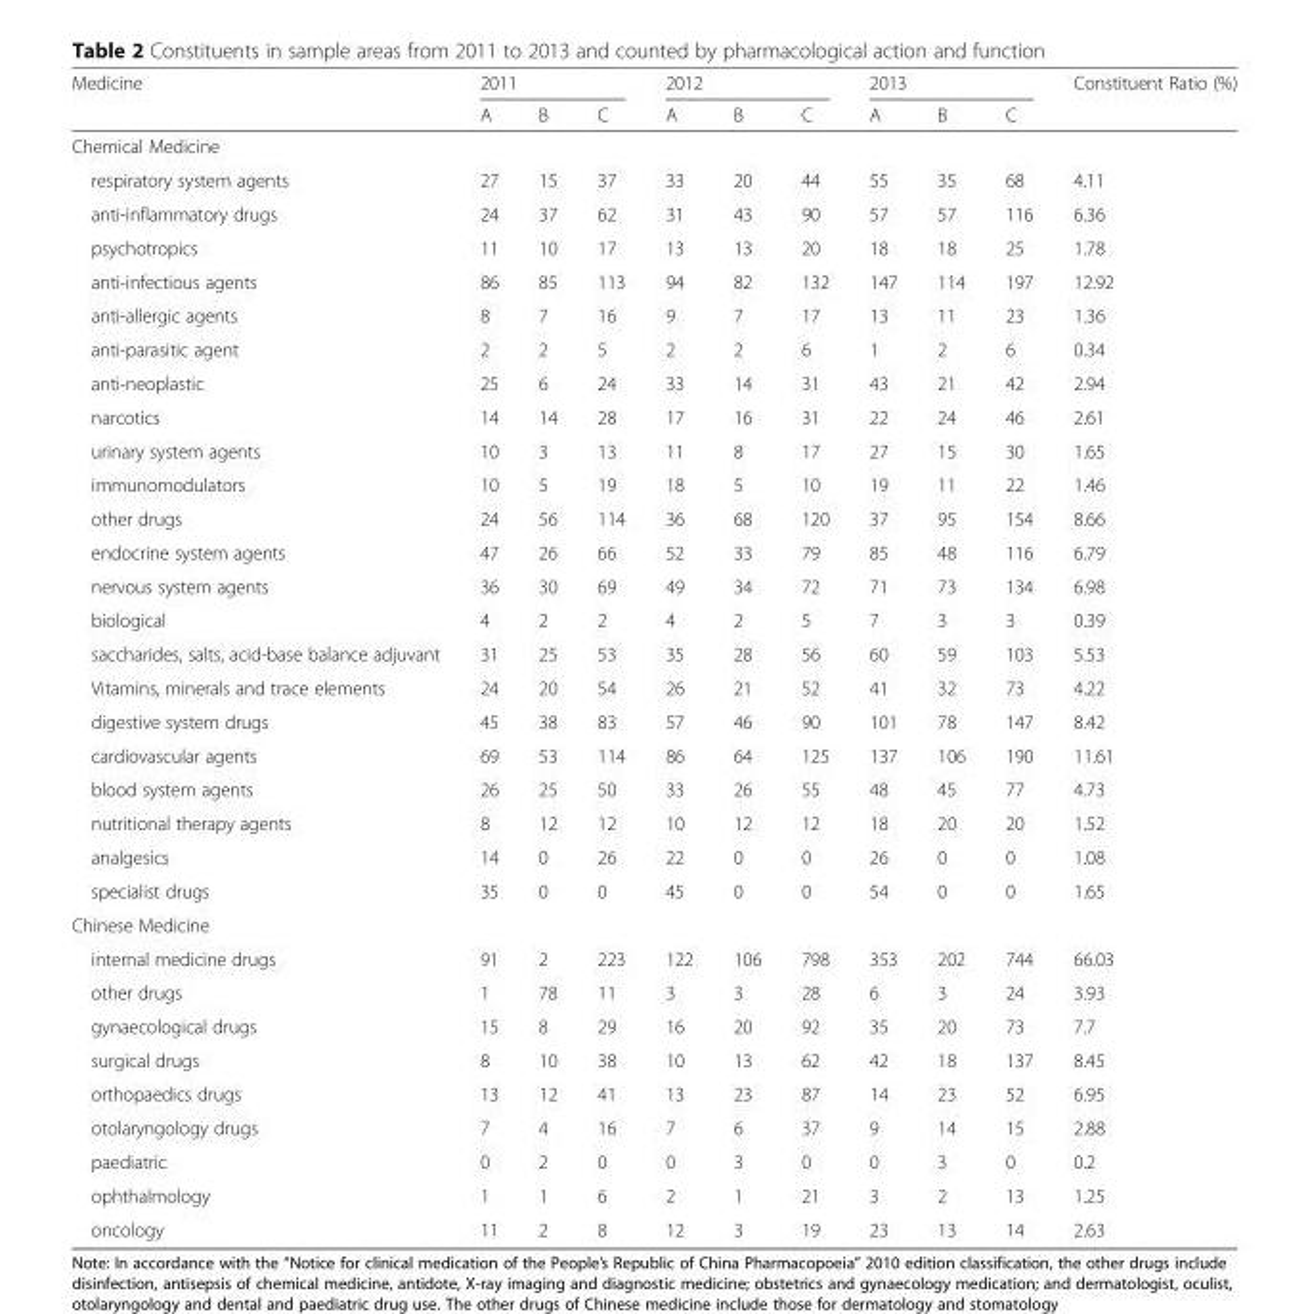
<table><thead><tr><td rowspan="2">Medicine</td><td colspan="3">2011</td><td colspan="3">2012</td><td colspan="3">2013</td><td rowspan="2">Constituent Ratio (%)</td></tr><tr><td>A</td><td>B</td><td>C</td><td>A</td><td>B</td><td>C</td><td>A</td><td>B</td><td>C</td></tr></thead><tbody><tr><td colspan="11">Chemical Medicine</td></tr><tr><td>respiratory system agents</td><td>27</td><td>15</td><td>37</td><td>33</td><td>20</td><td>44</td><td>55</td><td>35</td><td>68</td><td>4.11</td></tr><tr><td>anti-inflammatory drugs</td><td>24</td><td>37</td><td>62</td><td>31</td><td>43</td><td>90</td><td>57</td><td>57</td><td>116</td><td>6.36</td></tr><tr><td>psychotropics</td><td>11</td><td>10</td><td>17</td><td>13</td><td>13</td><td>20</td><td>18</td><td>18</td><td>25</td><td>1.78</td></tr><tr><td>anti-infectious agents</td><td>86</td><td>85</td><td>113</td><td>94</td><td>82</td><td>132</td><td>147</td><td>114</td><td>197</td><td>12.92</td></tr><tr><td>anti-allergic agents</td><td>8</td><td>7</td><td>16</td><td>9</td><td>7</td><td>17</td><td>13</td><td>11</td><td>23</td><td>1.36</td></tr><tr><td>anti-parasitic agent</td><td>2</td><td>2</td><td>5</td><td>2</td><td>2</td><td>6</td><td>1</td><td>2</td><td>6</td><td>0.34</td></tr><tr><td>anti-neoplastic</td><td>25</td><td>6</td><td>24</td><td>33</td><td>14</td><td>31</td><td>43</td><td>21</td><td>42</td><td>2.94</td></tr><tr><td>narcotics</td><td>14</td><td>14</td><td>28</td><td>17</td><td>16</td><td>31</td><td>22</td><td>24</td><td>46</td><td>2.61</td></tr><tr><td>urinary system agents</td><td>10</td><td>3</td><td>13</td><td>11</td><td>8</td><td>17</td><td>27</td><td>15</td><td>30</td><td>1.65</td></tr><tr><td>immunomodulators</td><td>10</td><td>5</td><td>19</td><td>18</td><td>5</td><td>10</td><td>19</td><td>11</td><td>22</td><td>1.46</td></tr><tr><td>other drugs</td><td>24</td><td>56</td><td>114</td><td>36</td><td>68</td><td>120</td><td>37</td><td>95</td><td>154</td><td>8.66</td></tr><tr><td>endocrine system agents</td><td>47</td><td>26</td><td>66</td><td>52</td><td>33</td><td>79</td><td>85</td><td>48</td><td>116</td><td>6.79</td></tr><tr><td>nervous system agents</td><td>36</td><td>30</td><td>69</td><td>49</td><td>34</td><td>72</td><td>71</td><td>73</td><td>134</td><td>6.98</td></tr><tr><td>biological</td><td>4</td><td>2</td><td>2</td><td>4</td><td>2</td><td>5</td><td>7</td><td>3</td><td>3</td><td>0.39</td></tr><tr><td>saccharides, salts, acid-base balance adjuvant</td><td>31</td><td>25</td><td>53</td><td>35</td><td>28</td><td>56</td><td>60</td><td>59</td><td>103</td><td>5.53</td></tr><tr><td>Vitamins, minerals and trace elements</td><td>24</td><td>20</td><td>54</td><td>26</td><td>21</td><td>52</td><td>41</td><td>32</td><td>73</td><td>4.22</td></tr><tr><td>digestive system drugs</td><td>45</td><td>38</td><td>83</td><td>57</td><td>46</td><td>90</td><td>101</td><td>78</td><td>147</td><td>8.42</td></tr><tr><td>cardiovascular agents</td><td>69</td><td>53</td><td>114</td><td>86</td><td>64</td><td>125</td><td>137</td><td>106</td><td>190</td><td>11.61</td></tr><tr><td>blood system agents</td><td>26</td><td>25</td><td>50</td><td>33</td><td>26</td><td>55</td><td>48</td><td>45</td><td>77</td><td>4.73</td></tr><tr><td>nutritional therapy agents</td><td>8</td><td>12</td><td>12</td><td>10</td><td>12</td><td>12</td><td>18</td><td>20</td><td>20</td><td>1.52</td></tr><tr><td>analgesics</td><td>14</td><td>0</td><td>26</td><td>22</td><td>0</td><td>0</td><td>26</td><td>0</td><td>0</td><td>1.08</td></tr><tr><td>specialist drugs</td><td>35</td><td>0</td><td>0</td><td>45</td><td>0</td><td>0</td><td>54</td><td>0</td><td>0</td><td>1.65</td></tr><tr><td colspan="11">Chinese Medicine</td></tr><tr><td>internal medicine drugs</td><td>91</td><td>2</td><td>223</td><td>122</td><td>106</td><td>798</td><td>353</td><td>202</td><td>744</td><td>66.03</td></tr><tr><td>other drugs</td><td>1</td><td>78</td><td>11</td><td>3</td><td>3</td><td>28</td><td>6</td><td>3</td><td>24</td><td>3.93</td></tr><tr><td>gynaecological drugs</td><td>15</td><td>8</td><td>29</td><td>16</td><td>20</td><td>92</td><td>35</td><td>20</td><td>73</td><td>7.7</td></tr><tr><td>surgical drugs</td><td>8</td><td>10</td><td>38</td><td>10</td><td>13</td><td>62</td><td>42</td><td>18</td><td>137</td><td>8.45</td></tr><tr><td>orthopaedics drugs</td><td>13</td><td>12</td><td>41</td><td>13</td><td>23</td><td>87</td><td>14</td><td>23</td><td>52</td><td>6.95</td></tr><tr><td>otolaryngology drugs</td><td>7</td><td>4</td><td>16</td><td>7</td><td>6</td><td>37</td><td>9</td><td>14</td><td>15</td><td>2.88</td></tr><tr><td>paediatric</td><td>0</td><td>2</td><td>0</td><td>0</td><td>3</td><td>0</td><td>0</td><td>3</td><td>0</td><td>0.2</td></tr><tr><td>ophthalmology</td><td>1</td><td>1</td><td>6</td><td>2</td><td>1</td><td>21</td><td>3</td><td>2</td><td>13</td><td>1.25</td></tr><tr><td>oncology</td><td>11</td><td>2</td><td>8</td><td>12</td><td>3</td><td>19</td><td>23</td><td>13</td><td>14</td><td>2.63</td></tr></tbody></table>